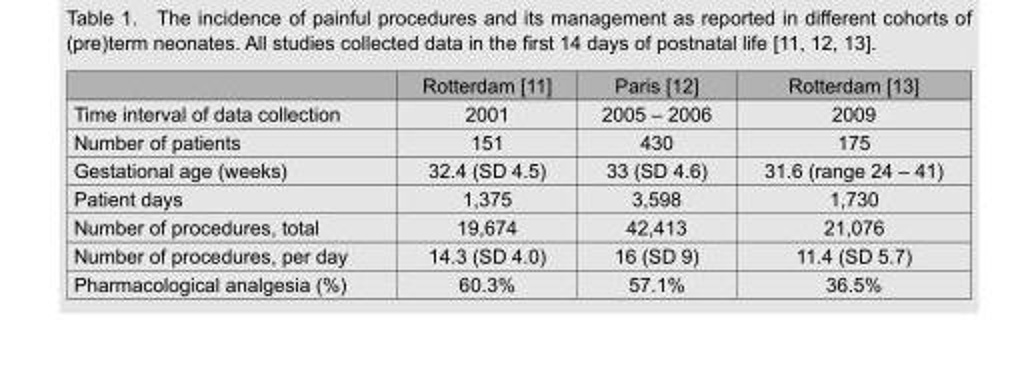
<table><thead><tr><td></td><td>Rotterdam [11]</td><td>Paris [12]</td><td>Rotterdam [13]</td></tr></thead><tbody><tr><td>Time interval of data collection</td><td>2001</td><td>2005 – 2006</td><td>2009</td></tr><tr><td>Number of patients</td><td>151</td><td>430</td><td>175</td></tr><tr><td>Gestational age (weeks)</td><td>32.4 (SD 4.5)</td><td>33 (SD 4.6)</td><td>31.6 (range 24 – 41)</td></tr><tr><td>Patient days</td><td>1,375</td><td>3,598</td><td>1,730</td></tr><tr><td>Number of procedures, total</td><td>19,674</td><td>42,413</td><td>21,076</td></tr><tr><td>Number of procedures, per day</td><td>14.3 (SD 4.0)</td><td>16 (SD 9)</td><td>11.4 (SD 5.7)</td></tr><tr><td>Pharmacological analgesia (%)</td><td>60.3%</td><td>57.1%</td><td>36.5%</td></tr></tbody></table>